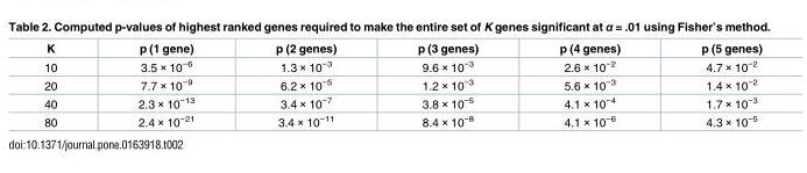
<table><thead><tr><td>K</td><td>p (1 gene)</td><td>p (2 genes)</td><td>p (3 genes)</td><td>p (4 genes)</td><td>p (5 genes)</td></tr></thead><tbody><tr><td>10</td><td>3.5 × 10<sup>−6</sup></td><td>1.3 × 10<sup>−3</sup></td><td>9.6 × 10<sup>−3</sup></td><td>2.6 × 10<sup>−2</sup></td><td>4.7 × 10<sup>−2</sup></td></tr><tr><td>20</td><td>7.7 × 10<sup>−9</sup></td><td>6.2 × 10<sup>−5</sup></td><td>1.2 × 10<sup>−3</sup></td><td>5.6 × 10<sup>−3</sup></td><td>1.4 × 10<sup>−2</sup></td></tr><tr><td>40</td><td>2.3 × 10<sup>−13</sup></td><td>3.4 × 10<sup>−7</sup></td><td>3.8 × 10<sup>−5</sup></td><td>4.1 × 10<sup>−4</sup></td><td>1.7 × 10<sup>−3</sup></td></tr><tr><td>80</td><td>2.4 × 10<sup>−21</sup></td><td>3.4 × 10<sup>−11</sup></td><td>8.4 × 10<sup>−8</sup></td><td>4.1 × 10<sup>−6</sup></td><td>4.3 × 10<sup>−5</sup></td></tr></tbody></table>